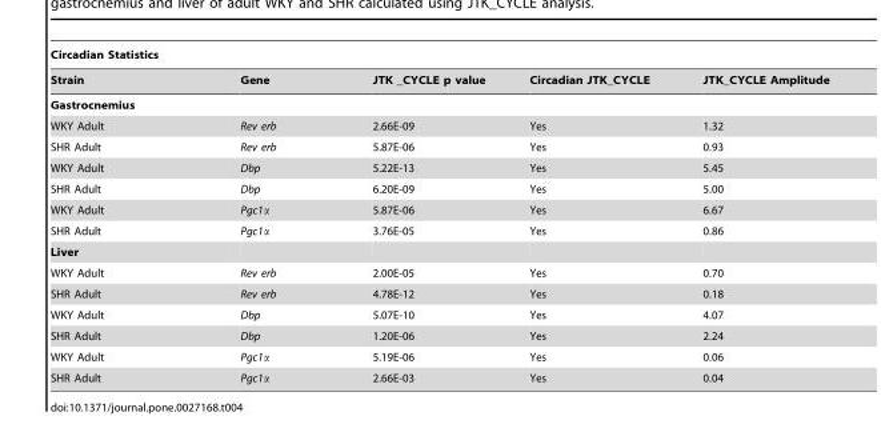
<table><thead><tr><td colspan="5">Circadian Statistics</td></tr><tr><td>Strain</td><td>Gene</td><td>JTK _CYCLE p value</td><td>Circadian JTK_CYCLE</td><td>JTK_CYCLE Amplitude</td></tr></thead><tbody><tr><td colspan="5">Gastrocnemius</td></tr><tr><td>WKY Adult</td><td>Rev erb</td><td>2.66E-09</td><td>Yes</td><td>1.32</td></tr><tr><td>SHR Adult</td><td>Rev erb</td><td>5.87E-06</td><td>Yes</td><td>0.93</td></tr><tr><td>WKY Adult</td><td>Dbp</td><td>5.22E-13</td><td>Yes</td><td>5.45</td></tr><tr><td>SHR Adult</td><td>Dbp</td><td>6.20E-09</td><td>Yes</td><td>5.00</td></tr><tr><td>WKY Adult</td><td>Pgc1α</td><td>5.87E-06</td><td>Yes</td><td>6.67</td></tr><tr><td>SHR Adult</td><td>Pgc1α</td><td>3.76E-05</td><td>Yes</td><td>0.86</td></tr><tr><td colspan="5">Liver</td></tr><tr><td>WKY Adult</td><td>Rev erb</td><td>2.00E-05</td><td>Yes</td><td>0.70</td></tr><tr><td>SHR Adult</td><td>Rev erb</td><td>4.78E-12</td><td>Yes</td><td>0.18</td></tr><tr><td>WKY Adult</td><td>Dbp</td><td>5.07E-10</td><td>Yes</td><td>4.07</td></tr><tr><td>SHR Adult</td><td>Dbp</td><td>1.20E-06</td><td>Yes</td><td>2.24</td></tr><tr><td>WKY Adult</td><td>Pgc1α</td><td>5.19E-06</td><td>Yes</td><td>0.06</td></tr><tr><td>SHR Adult</td><td>Pgc1α</td><td>2.66E-03</td><td>Yes</td><td>0.04</td></tr></tbody></table>